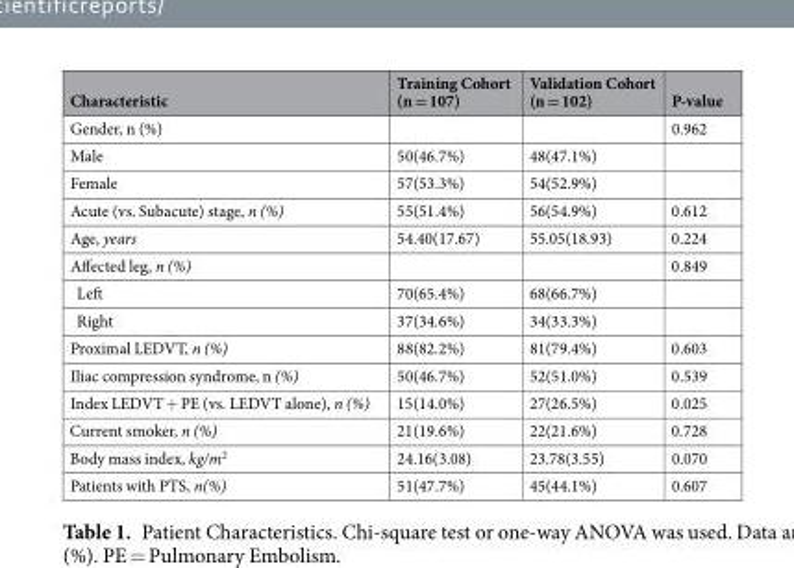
<table><thead><tr><td>Characteristic</td><td>Training Cohort (n = 107)</td><td>Validation Cohort (n = 102)</td><td>P-value</td></tr></thead><tbody><tr><td>Gender, n (%)</td><td></td><td></td><td>0.962</td></tr><tr><td>Male</td><td>50(46.7%)</td><td>48(47.1%)</td><td></td></tr><tr><td>Female</td><td>57(53.3%)</td><td>54(52.9%)</td><td></td></tr><tr><td>Acute (vs. Subacute) stage, n (%)</td><td>55(51.4%)</td><td>56(54.9%)</td><td>0.612</td></tr><tr><td>Age, years</td><td>54.40(17.67)</td><td>55.05(18.93)</td><td>0.224</td></tr><tr><td>Affected leg, n (%)</td><td></td><td></td><td>0.849</td></tr><tr><td>Left</td><td>70(65.4%)</td><td>68(66.7%)</td><td></td></tr><tr><td>Right</td><td>37(34.6%)</td><td>34(33.3%)</td><td></td></tr><tr><td>Proximal LEDVT, n (%)</td><td>88(82.2%)</td><td>81(79.4%)</td><td>0.603</td></tr><tr><td>Iliac compression syndrome, n (%)</td><td>50(46.7%)</td><td>52(51.0%)</td><td>0.539</td></tr><tr><td>Index LEDVT + PE (vs. LEDVT alone), n (%)</td><td>15(14.0%)</td><td>27(26.5%)</td><td>0.025</td></tr><tr><td>Current smoker, n (%)</td><td>21(19.6%)</td><td>22(21.6%)</td><td>0.728</td></tr><tr><td>Body mass index, kg/m<sup>2</sup></td><td>24.16(3.08)</td><td>23.78(3.55)</td><td>0.070</td></tr><tr><td>Patients with PTS, n(%)</td><td>51(47.7%)</td><td>45(44.1%)</td><td>0.607</td></tr></tbody></table>